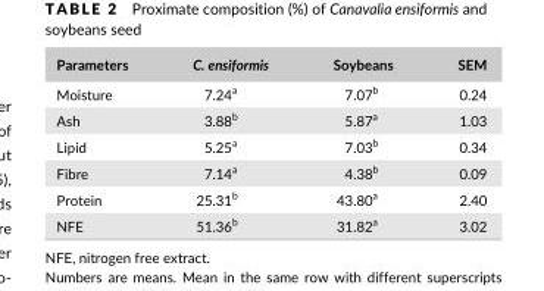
<table><thead><tr><td>Parameters</td><td>C. ensiformis</td><td>Soybeans</td><td>SEM</td></tr></thead><tbody><tr><td>Moisture</td><td>7.24<sup>a</sup></td><td>7.07<sup>b</sup></td><td>0.24</td></tr><tr><td>Ash</td><td>3.88<sup>b</sup></td><td>5.87<sup>a</sup></td><td>1.03</td></tr><tr><td>Lipid</td><td>5.25<sup>a</sup></td><td>7.03<sup>b</sup></td><td>0.34</td></tr><tr><td>Fibre</td><td>7.14<sup>a</sup></td><td>4.38<sup>b</sup></td><td>0.09</td></tr><tr><td>Protein</td><td>25.31<sup>b</sup></td><td>43.80<sup>a</sup></td><td>2.40</td></tr><tr><td>NFE</td><td>51.36<sup>b</sup></td><td>31.82<sup>a</sup></td><td>3.02</td></tr></tbody></table>